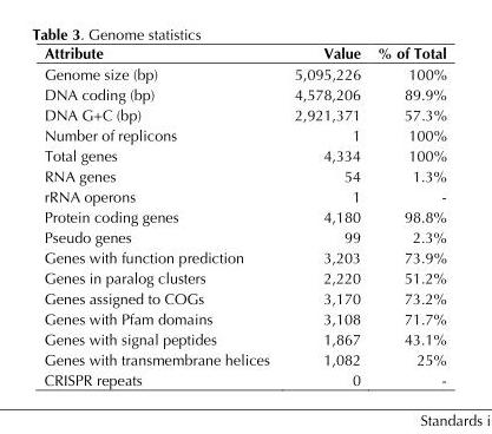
<table><thead><tr><td>Attribute</td><td>Value</td><td>% of Total</td></tr></thead><tbody><tr><td>Genome size (bp)</td><td>5,095,226</td><td>100%</td></tr><tr><td>DNA coding (bp)</td><td>4,578,206</td><td>89.9%</td></tr><tr><td>DNA G+C (bp)</td><td>2,921,371</td><td>57.3%</td></tr><tr><td>Number of replicons</td><td>1</td><td>100%</td></tr><tr><td>Total genes</td><td>4,334</td><td>100%</td></tr><tr><td>RNA genes</td><td>54</td><td>1.3%</td></tr><tr><td>rRNA operons</td><td>1</td><td>-</td></tr><tr><td>Protein coding genes</td><td>4,180</td><td>98.8%</td></tr><tr><td>Pseudo genes</td><td>99</td><td>2.3%</td></tr><tr><td>Genes with function prediction</td><td>3,203</td><td>73.9%</td></tr><tr><td>Genes in paralog clusters</td><td>2,220</td><td>51.2%</td></tr><tr><td>Genes assigned to COGs</td><td>3,170</td><td>73.2%</td></tr><tr><td>Genes with Pfam domains</td><td>3,108</td><td>71.7%</td></tr><tr><td>Genes with signal peptides</td><td>1,867</td><td>43.1%</td></tr><tr><td>Genes with transmembrane helices</td><td>1,082</td><td>25%</td></tr><tr><td>CRISPR repeats</td><td>0</td><td>-</td></tr></tbody></table>